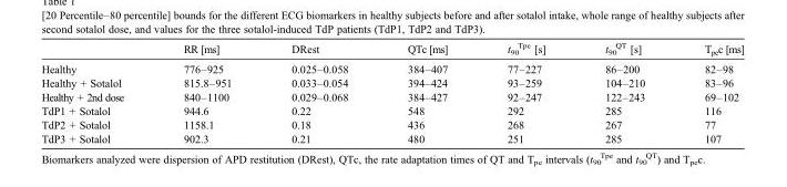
<table><thead><tr><td></td><td>RR [ms]</td><td>DRest</td><td>QTc [ms]</td><td>t<sub>90</sub> <sup>Tpe</sup> [s]</td><td>t<sub>90</sub> <sup>QT</sup> [s]</td><td>T<sub>pe</sub>c [ms]</td></tr></thead><tbody><tr><td>Healthy</td><td>776–925</td><td>0.025–0.058</td><td>384–407</td><td>77–227</td><td>86–200</td><td>82–98</td></tr><tr><td>Healthy + Sotalol</td><td>815.8–951</td><td>0.033–0.054</td><td>394–424</td><td>93–259</td><td>104–210</td><td>83–96</td></tr><tr><td>Healthy + 2nd dose</td><td>840–1100</td><td>0.029–0.068</td><td>384–427</td><td>92–247</td><td>122–243</td><td>69–102</td></tr><tr><td>TdP1 + Sotalol</td><td>944.6</td><td>0.22</td><td>548</td><td>292</td><td>285</td><td>116</td></tr><tr><td>TdP2 + Sotalol</td><td>1158.1</td><td>0.18</td><td>436</td><td>268</td><td>267</td><td>77</td></tr><tr><td>TdP3 + Sotalol</td><td>902.3</td><td>0.21</td><td>480</td><td>251</td><td>285</td><td>107</td></tr></tbody></table>